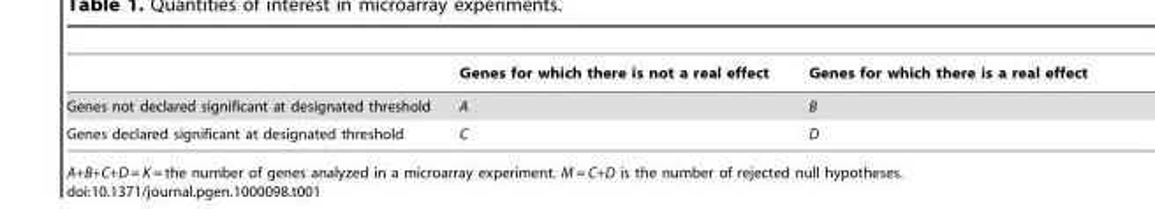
<table><thead><tr><td></td><td>Genes for which there is not a real effect</td><td>Genes for which there is a real effect</td></tr></thead><tbody><tr><td>Genes not declared significant at designated threshold</td><td>A</td><td>B</td></tr><tr><td>Genes declared significant at designated threshold</td><td>C</td><td>D</td></tr></tbody></table>